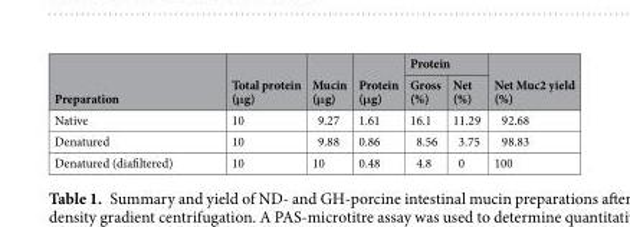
<table><thead><tr><td rowspan="2">Preparation</td><td rowspan="2">Total protein (μg)</td><td rowspan="2">Mucin (μg)</td><td rowspan="2">Protein (μg)</td><td colspan="2">Protein</td><td rowspan="2">Net Muc2 yield (%)</td></tr><tr><td>Gross (%)</td><td>Net (%)</td></tr></thead><tbody><tr><td>Native</td><td>10</td><td>9.27</td><td>1.61</td><td>16.1</td><td>11.29</td><td>92.68</td></tr><tr><td>Denatured</td><td>10</td><td>9.88</td><td>0.86</td><td>8.56</td><td>3.75</td><td>98.83</td></tr><tr><td>Denatured (diafiltered)</td><td>10</td><td>10</td><td>0.48</td><td>4.8</td><td>0</td><td>100</td></tr></tbody></table>